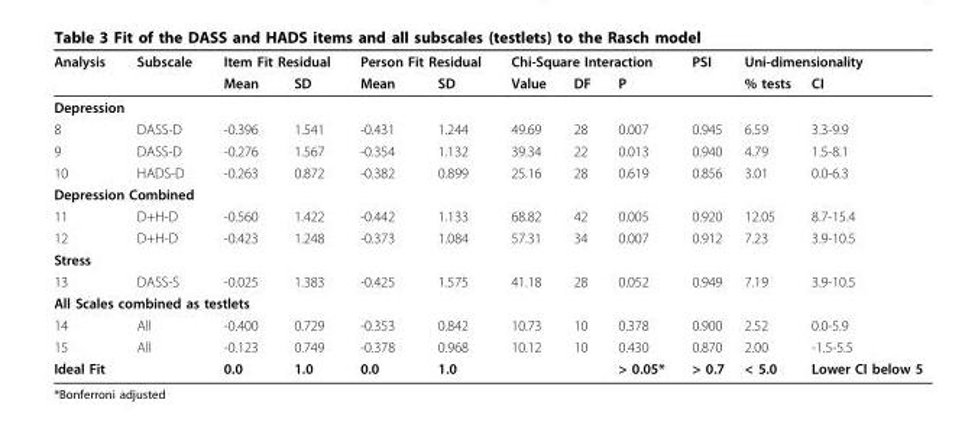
<table><thead><tr><td rowspan="2">Analysis</td><td rowspan="2">Subscale</td><td colspan="2">Item Fit Residual</td><td colspan="2">Person Fit Residual</td><td colspan="3">Chi-Square Interaction</td><td rowspan="2">PSI</td><td colspan="2">Uni-dimensionality</td></tr><tr><td>Mean</td><td>SD</td><td>Mean</td><td>SD</td><td>Value</td><td>DF</td><td>P</td><td>% tests</td><td>CI</td></tr></thead><tbody><tr><td colspan="12">Depression</td></tr><tr><td>8</td><td>DASS-D</td><td>-0.396</td><td>1.541</td><td>-0.431</td><td>1.244</td><td>49.69</td><td>28</td><td>0.007</td><td>0.945</td><td>6.59</td><td>3.3-9.9</td></tr><tr><td>9</td><td>DASS-D</td><td>-0.276</td><td>1.567</td><td>-0.354</td><td>1.132</td><td>39.34</td><td>22</td><td>0.013</td><td>0.940</td><td>4.79</td><td>1.5-8.1</td></tr><tr><td>10</td><td>HADS-D</td><td>-0.263</td><td>0.872</td><td>-0.382</td><td>0.899</td><td>25.16</td><td>28</td><td>0.619</td><td>0.856</td><td>3.01</td><td>0.0-6.3</td></tr><tr><td colspan="12">Depression Combined</td></tr><tr><td>11</td><td>D+H-D</td><td>-0.560</td><td>1.422</td><td>-0.442</td><td>1.133</td><td>68.82</td><td>42</td><td>0.005</td><td>0.920</td><td>12.05</td><td>8.7-15.4</td></tr><tr><td>12</td><td>D+H-D</td><td>-0.423</td><td>1.248</td><td>-0.373</td><td>1.084</td><td>57.31</td><td>34</td><td>0.007</td><td>0.912</td><td>7.23</td><td>3.9-10.5</td></tr><tr><td colspan="12">Stress</td></tr><tr><td>13</td><td>DASS-S</td><td>-0.025</td><td>1.383</td><td>-0.425</td><td>1.575</td><td>41.18</td><td>28</td><td>0.052</td><td>0.949</td><td>7.19</td><td>3.9-10.5</td></tr><tr><td colspan="12">All Scales combined as testlets</td></tr><tr><td>14</td><td>All</td><td>-0.400</td><td>0.729</td><td>-0.353</td><td>0.842</td><td>10.73</td><td>10</td><td>0.378</td><td>0.900</td><td>2.52</td><td>0.0-5.9</td></tr><tr><td>15</td><td>All</td><td>-0.123</td><td>0.749</td><td>-0.378</td><td>0.968</td><td>10.12</td><td>10</td><td>0.430</td><td>0.870</td><td>2.00</td><td>-1.5-5.5</td></tr><tr><td>Ideal Fit</td><td></td><td>0.0</td><td>1.0</td><td>0.0</td><td>1.0</td><td></td><td></td><td>&gt; 0.05*</td><td>&gt; 0.7</td><td>&lt; 5.0</td><td>Lower CI below 5</td></tr></tbody></table>